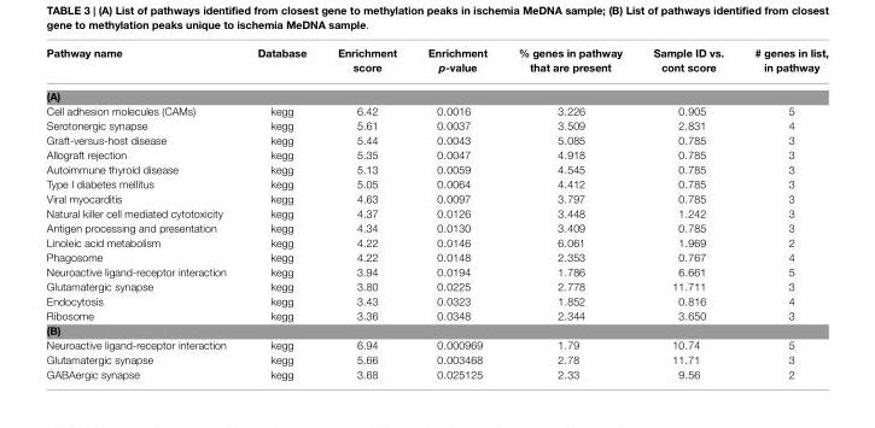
<table><thead><tr><td>Pathway name</td><td>Database</td><td>Enrichment score</td><td>Enrichment p-value</td><td>% genes in pathway that are present</td><td>Sample ID vs. cont score</td><td># genes in list, in pathway</td></tr></thead><tbody><tr><td colspan="7">(A)</td></tr><tr><td>Cell adhesion molecules (CAMs)</td><td>kegg</td><td>6.42</td><td>0.0016</td><td>3.226</td><td>0.905</td><td>5</td></tr><tr><td>Serotonergic synapse</td><td>kegg</td><td>5.61</td><td>0.0037</td><td>3.509</td><td>2.831</td><td>4</td></tr><tr><td>Graft-versus-host disease</td><td>kegg</td><td>5.44</td><td>0.0043</td><td>5.085</td><td>0.785</td><td>3</td></tr><tr><td>Allograft rejection</td><td>kegg</td><td>5.35</td><td>0.0047</td><td>4.918</td><td>0.785</td><td>3</td></tr><tr><td>Autoimmune thyroid disease</td><td>kegg</td><td>5.13</td><td>0.0059</td><td>4.545</td><td>0.785</td><td>3</td></tr><tr><td>Type I diabetes mellitus</td><td>kegg</td><td>5.05</td><td>0.0064</td><td>4.412</td><td>0.785</td><td>3</td></tr><tr><td>Viral myocarditis</td><td>kegg</td><td>4.63</td><td>0.0097</td><td>3.797</td><td>0.785</td><td>3</td></tr><tr><td>Natural killer cell mediated cytotoxicity</td><td>kegg</td><td>4.37</td><td>0.0126</td><td>3.448</td><td>1.242</td><td>3</td></tr><tr><td>Antigen processing and presentation</td><td>kegg</td><td>4.34</td><td>0.0130</td><td>3.409</td><td>0.785</td><td>3</td></tr><tr><td>Linoleic acid metabolism</td><td>kegg</td><td>4.22</td><td>0.0146</td><td>6.061</td><td>1.969</td><td>2</td></tr><tr><td>Phagosome</td><td>kegg</td><td>4.22</td><td>0.0148</td><td>2.353</td><td>0.767</td><td>4</td></tr><tr><td>Neuroactive ligand-receptor interaction</td><td>kegg</td><td>3.94</td><td>0.0194</td><td>1.786</td><td>6.661</td><td>5</td></tr><tr><td>Glutamatergic synapse</td><td>kegg</td><td>3.80</td><td>0.0225</td><td>2.778</td><td>11.711</td><td>3</td></tr><tr><td>Endocytosis</td><td>kegg</td><td>3.43</td><td>0.0323</td><td>1.852</td><td>0.816</td><td>4</td></tr><tr><td>Ribosome</td><td>kegg</td><td>3.36</td><td>0.0348</td><td>2.344</td><td>3.650</td><td>3</td></tr><tr><td colspan="7">(B)</td></tr><tr><td>Neuroactive ligand-receptor interaction</td><td>kegg</td><td>6.94</td><td>0.000969</td><td>1.79</td><td>10.74</td><td>5</td></tr><tr><td>Glutamatergic synapse</td><td>kegg</td><td>5.66</td><td>0.003468</td><td>2.78</td><td>11.71</td><td>3</td></tr><tr><td>GABAergic synapse</td><td>kegg</td><td>3.68</td><td>0.025125</td><td>2.33</td><td>9.56</td><td>2</td></tr></tbody></table>